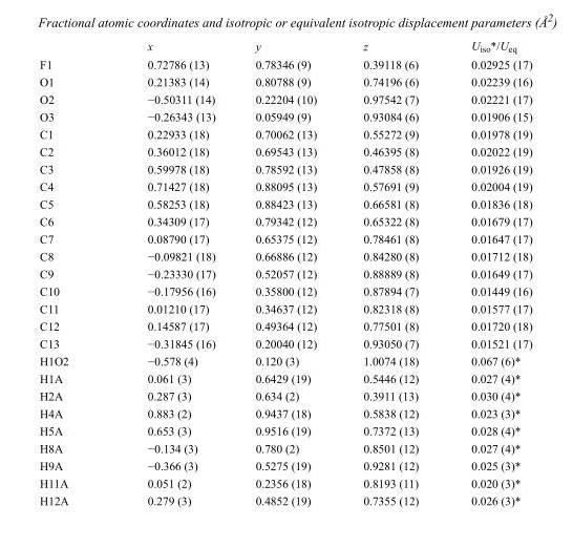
<table><thead><tr><td></td><td>x</td><td>y</td><td>z</td><td>U<sub>iso</sub>*/U<sub>eq</sub></td></tr></thead><tbody><tr><td>F1</td><td>0.72786 (13)</td><td>0.78346 (9)</td><td>0.39118 (6)</td><td>0.02925 (17)</td></tr><tr><td>O1</td><td>0.21383 (14)</td><td>0.80788 (9)</td><td>0.74196 (6)</td><td>0.02239 (16)</td></tr><tr><td>O2</td><td>−0.50311 (14)</td><td>0.22204 (10)</td><td>0.97542 (7)</td><td>0.02221 (17)</td></tr><tr><td>O3</td><td>−0.26343 (13)</td><td>0.05949 (9)</td><td>0.93084 (6)</td><td>0.01906 (15)</td></tr><tr><td>C1</td><td>0.22933 (18)</td><td>0.70062 (13)</td><td>0.55272 (9)</td><td>0.01978 (19)</td></tr><tr><td>C2</td><td>0.36012 (18)</td><td>0.69543 (13)</td><td>0.46395 (8)</td><td>0.02022 (19)</td></tr><tr><td>C3</td><td>0.59978 (18)</td><td>0.78592 (13)</td><td>0.47858 (8)</td><td>0.01926 (19)</td></tr><tr><td>C4</td><td>0.71427 (18)</td><td>0.88095 (13)</td><td>0.57691 (9)</td><td>0.02004 (19)</td></tr><tr><td>C5</td><td>0.58253 (18)</td><td>0.88423 (13)</td><td>0.66581 (8)</td><td>0.01836 (18)</td></tr><tr><td>C6</td><td>0.34309 (17)</td><td>0.79342 (12)</td><td>0.65322 (8)</td><td>0.01679 (17)</td></tr><tr><td>C7</td><td>0.08790 (17)</td><td>0.65375 (12)</td><td>0.78461 (8)</td><td>0.01647 (17)</td></tr><tr><td>C8</td><td>−0.09821 (18)</td><td>0.66886 (12)</td><td>0.84280 (8)</td><td>0.01712 (18)</td></tr><tr><td>C9</td><td>−0.23330 (17)</td><td>0.52057 (12)</td><td>0.88889 (8)</td><td>0.01649 (17)</td></tr><tr><td>C10</td><td>−0.17956 (16)</td><td>0.35800 (12)</td><td>0.87894 (7)</td><td>0.01449 (16)</td></tr><tr><td>C11</td><td>0.01210 (17)</td><td>0.34637 (12)</td><td>0.82318 (8)</td><td>0.01577 (17)</td></tr><tr><td>C12</td><td>0.14587 (17)</td><td>0.49364 (12)</td><td>0.77501 (8)</td><td>0.01720 (18)</td></tr><tr><td>C13</td><td>−0.31845 (16)</td><td>0.20040 (12)</td><td>0.93050 (7)</td><td>0.01521 (17)</td></tr><tr><td>H1O2</td><td>−0.578 (4)</td><td>0.120 (3)</td><td>1.0074 (18)</td><td>0.067 (6)*</td></tr><tr><td>H1A</td><td>0.061 (3)</td><td>0.6429 (19)</td><td>0.5446 (12)</td><td>0.027 (4)*</td></tr><tr><td>H2A</td><td>0.287 (3)</td><td>0.634 (2)</td><td>0.3911 (13)</td><td>0.030 (4)*</td></tr><tr><td>H4A</td><td>0.883 (2)</td><td>0.9437 (18)</td><td>0.5838 (12)</td><td>0.023 (3)*</td></tr><tr><td>H5A</td><td>0.653 (3)</td><td>0.9516 (19)</td><td>0.7372 (13)</td><td>0.028 (4)*</td></tr><tr><td>H8A</td><td>−0.134 (3)</td><td>0.780 (2)</td><td>0.8501 (12)</td><td>0.027 (4)*</td></tr><tr><td>H9A</td><td>−0.366 (3)</td><td>0.5275 (19)</td><td>0.9281 (12)</td><td>0.025 (3)*</td></tr><tr><td>H11A</td><td>0.051 (2)</td><td>0.2356 (18)</td><td>0.8193 (11)</td><td>0.020 (3)*</td></tr><tr><td>H12A</td><td>0.279 (3)</td><td>0.4852 (19)</td><td>0.7355 (12)</td><td>0.026 (3)*</td></tr></tbody></table>